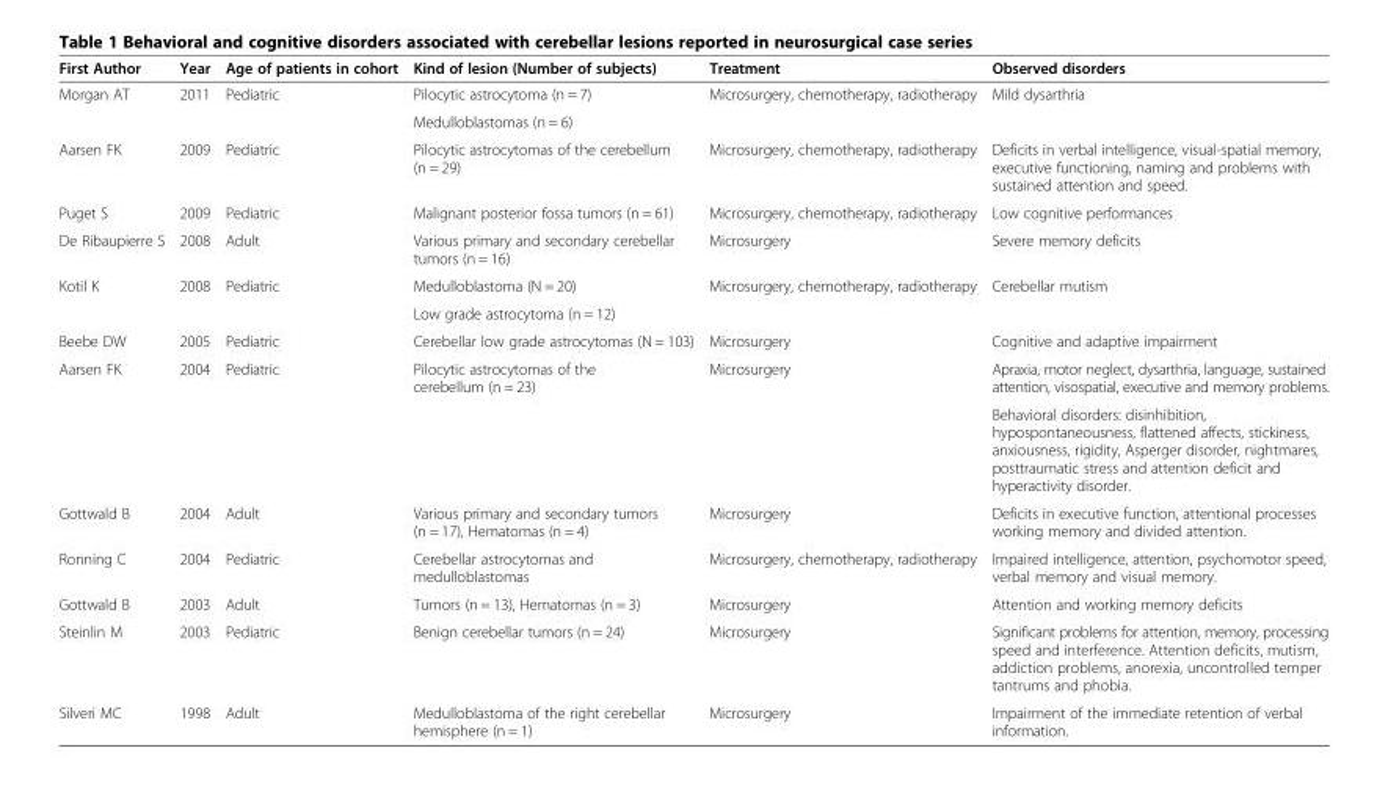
<table><thead><tr><td>First Author</td><td>Year</td><td>Age of patients in cohort</td><td>Kind of lesion (Number of subjects)</td><td>Treatment</td><td>Observed disorders</td></tr></thead><tbody><tr><td rowspan="2">Morgan AT</td><td rowspan="2">2011</td><td rowspan="2">Pediatric</td><td>Pilocytic astrocytoma (n = 7)</td><td rowspan="2">Microsurgery, chemotherapy, radiotherapy</td><td rowspan="2">Mild dysarthria</td></tr><tr><td>Medulloblastomas (n = 6)</td></tr><tr><td>Aarsen FK</td><td>2009</td><td>Pediatric</td><td>Pilocytic astrocytomas of the cerebellum (n = 29)</td><td>Microsurgery, chemotherapy, radiotherapy</td><td>Deficits in verbal intelligence, visual-spatial memory, executive functioning, naming and problems with sustained attention and speed.</td></tr><tr><td>Puget S</td><td>2009</td><td>Pediatric</td><td>Malignant posterior fossa tumors (n = 61)</td><td>Microsurgery, chemotherapy, radiotherapy</td><td>Low cognitive performances</td></tr><tr><td>De Ribaupierre S</td><td>2008</td><td>Adult</td><td>Various primary and secondary cerebellar tumors (n = 16)</td><td>Microsurgery</td><td>Severe memory deficits</td></tr><tr><td rowspan="2">Kotil K</td><td rowspan="2">2008</td><td rowspan="2">Pediatric</td><td>Medulloblastoma (N = 20)</td><td rowspan="2">Microsurgery, chemotherapy, radiotherapy</td><td rowspan="2">Cerebellar mutism</td></tr><tr><td>Low grade astrocytoma (n = 12)</td></tr><tr><td>Beebe DW</td><td>2005</td><td>Pediatric</td><td>Cerebellar low grade astrocytomas (N = 103)</td><td>Microsurgery</td><td>Cognitive and adaptive impairment</td></tr><tr><td rowspan="2">Aarsen FK</td><td rowspan="2">2004</td><td rowspan="2">Pediatric</td><td rowspan="2">Pilocytic astrocytomas of the cerebellum (n = 23)</td><td rowspan="2">Microsurgery</td><td>Apraxia, motor neglect, dysarthria, language, sustained attention, visospatial, executive and memory problems.</td></tr><tr><td>Behavioral disorders: disinhibition, hypospontaneousness, flattened affects, stickiness, anxiousness, rigidity, Asperger disorder, nightmares, posttraumatic stress and attention deficit and hyperactivity disorder.</td></tr><tr><td>Gottwald B</td><td>2004</td><td>Adult</td><td>Various primary and secondary tumors (n = 17), Hematomas (n = 4)</td><td>Microsurgery</td><td>Deficits in executive function, attentional processes working memory and divided attention.</td></tr><tr><td>Ronning C</td><td>2004</td><td>Pediatric</td><td>Cerebellar astrocytomas and medulloblastomas</td><td>Microsurgery, chemotherapy, radiotherapy</td><td>Impaired intelligence, attention, psychomotor speed, verbal memory and visual memory.</td></tr><tr><td>Gottwald B</td><td>2003</td><td>Adult</td><td>Tumors (n = 13), Hematomas (n = 3)</td><td>Microsurgery</td><td>Attention and working memory deficits</td></tr><tr><td>Steinlin M</td><td>2003</td><td>Pediatric</td><td>Benign cerebellar tumors (n = 24)</td><td>Microsurgery</td><td>Significant problems for attention, memory, processing speed and interference. Attention deficits, mutism, addiction problems, anorexia, uncontrolled temper tantrums and phobia.</td></tr><tr><td>Silveri MC</td><td>1998</td><td>Adult</td><td>Medulloblastoma of the right cerebellar hemisphere (n = 1)</td><td>Microsurgery</td><td>Impairment of the immediate retention of verbal information.</td></tr></tbody></table>